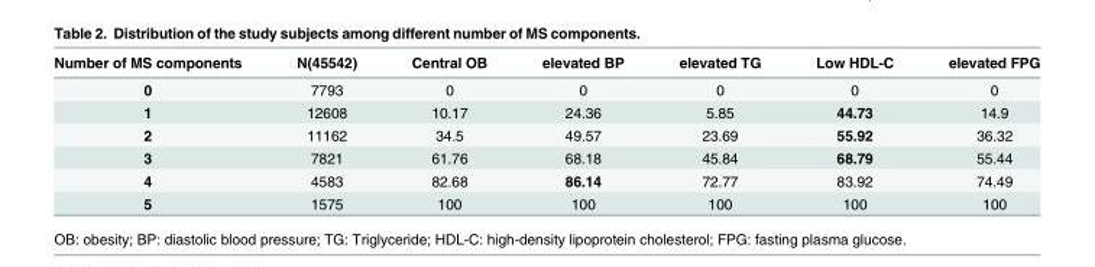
<table><thead><tr><td>Number of MS components</td><td>N(45542)</td><td>Central OB</td><td>elevated BP</td><td>elevated TG</td><td>Low HDL-C</td><td>elevated FPG</td></tr></thead><tbody><tr><td>0</td><td>7793</td><td>0</td><td>0</td><td>0</td><td>0</td><td>0</td></tr><tr><td>1</td><td>12608</td><td>10.17</td><td>24.36</td><td>5.85</td><td>44.73</td><td>14.9</td></tr><tr><td>2</td><td>11162</td><td>34.5</td><td>49.57</td><td>23.69</td><td>55.92</td><td>36.32</td></tr><tr><td>3</td><td>7821</td><td>61.76</td><td>68.18</td><td>45.84</td><td>68.79</td><td>55.44</td></tr><tr><td>4</td><td>4583</td><td>82.68</td><td>86.14</td><td>72.77</td><td>83.92</td><td>74.49</td></tr><tr><td>5</td><td>1575</td><td>100</td><td>100</td><td>100</td><td>100</td><td>100</td></tr></tbody></table>